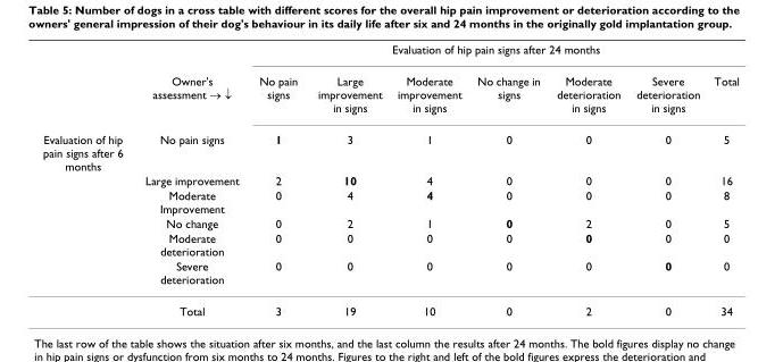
<table><thead><tr><td rowspan="8">Evaluation of hip pain signs after 6 months</td><td rowspan="8">Owner&#x27;s assessment → ↓ No pain signs Large improvement Moderate Improvement No change Moderate deterioration Severe deterioration</td><td colspan="7">Evaluation of hip pain signs after 24 months</td></tr><tr><td rowspan="7">No pain signs 1 2 0 0 0 0</td><td rowspan="7">Large improvement in signs 3 10 4 2 0 0</td><td rowspan="7">Moderate improvement in signs 1 4 4 1 0 0</td><td rowspan="7">No change in signs 0 0 0 0 0 0</td><td rowspan="7">Moderate deterioration in signs 0 0 0 2 0 0</td><td rowspan="7">Severe deterioration in signs 0 0 0 0 0 0</td><td rowspan="7">Total 5 16 8 5 0 0</td></tr><tr></tr><tr></tr><tr></tr><tr></tr><tr></tr><tr></tr></thead><tbody><tr><td></td><td>Total</td><td>3</td><td>19</td><td>10</td><td>0</td><td>2</td><td>0</td><td>34</td></tr></tbody></table>